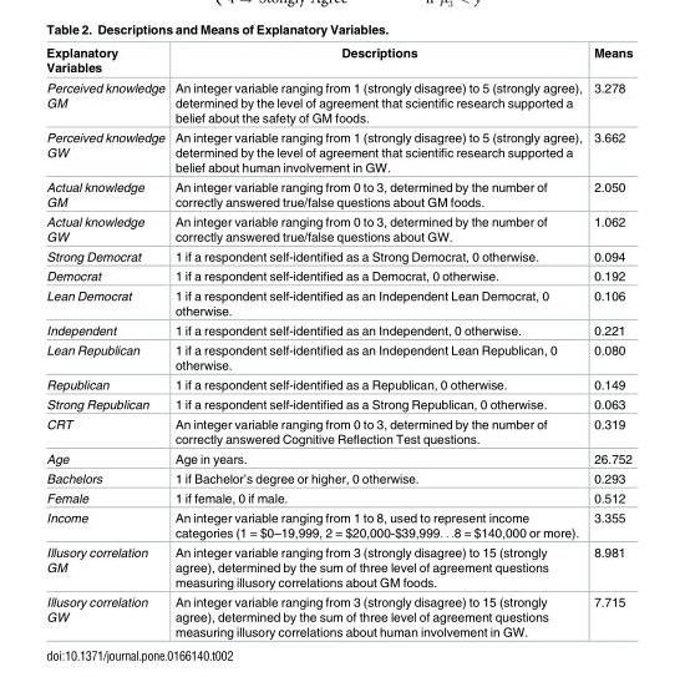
<table><thead><tr><td>Explanatory Variables</td><td>Descriptions</td><td>Means</td></tr></thead><tbody><tr><td>Perceived knowledge GM</td><td>An integer variable ranging from 1 (strongly disagree) to 5 (strongly agree), determined by the level of agreement that scientific research supported a belief about the safety of GM foods.</td><td>3.278</td></tr><tr><td>Perceived knowledge GW</td><td>An integer variable ranging from 1 (strongly disagree) to 5 (strongly agree), determined by the level of agreement that scientific research supported a belief about human involvement in GW.</td><td>3.662</td></tr><tr><td>Actual knowledge GM</td><td>An integer variable ranging from 0 to 3, determined by the number of correctly answered true/false questions about GM foods.</td><td>2.050</td></tr><tr><td>Actual knowledge GW</td><td>An integer variable ranging from 0 to 3, determined by the number of correctly answered true/false questions about GW.</td><td>1.062</td></tr><tr><td>Strong Democrat</td><td>1 if a respondent self-identified as a Strong Democrat, 0 otherwise.</td><td>0.094</td></tr><tr><td>Democrat</td><td>1 if a respondent self-identified as a Democrat, 0 otherwise.</td><td>0.192</td></tr><tr><td>Lean Democrat</td><td>1 if a respondent self-identified as an Independent Lean Democrat, 0 otherwise.</td><td>0.106</td></tr><tr><td>Independent</td><td>1 if a respondent self-identified as an Independent, 0 otherwise.</td><td>0.221</td></tr><tr><td>Lean Republican</td><td>1 if a respondent self-identified as an Independent Lean Republican, 0 otherwise.</td><td>0.080</td></tr><tr><td>Republican</td><td>1 if a respondent self-identified as a Republican, 0 otherwise.</td><td>0.149</td></tr><tr><td>Strong Republican</td><td>1 if a respondent self-identified as a Strong Republican, 0 otherwise.</td><td>0.063</td></tr><tr><td>CRT</td><td>An integer variable ranging from 0 to 3, determined by the number of correctly answered Cognitive Reflection Test questions.</td><td>0.319</td></tr><tr><td>Age</td><td>Age in years.</td><td>26.752</td></tr><tr><td>Bachelors</td><td>1 if Bachelor’s degree or higher, 0 otherwise.</td><td>0.293</td></tr><tr><td>Female</td><td>1 if female, 0 if male.</td><td>0.512</td></tr><tr><td>Income</td><td>An integer variable ranging from 1 to 8, used to represent income categories (1 = $0–19,999, 2 = $20,000-$39,999. . .8 = $140,000 or more).</td><td>3.355</td></tr><tr><td>Illusory correlation GM</td><td>An integer variable ranging from 3 (strongly disagree) to 15 (strongly agree), determined by the sum of three level of agreement questions measuring illusory correlations about GM foods.</td><td>8.981</td></tr><tr><td>Illusory correlation GW</td><td>An integer variable ranging from 3 (strongly disagree) to 15 (strongly agree), determined by the sum of three level of agreement questions measuring illusory correlations about human involvement in GW.</td><td>7.715</td></tr></tbody></table>